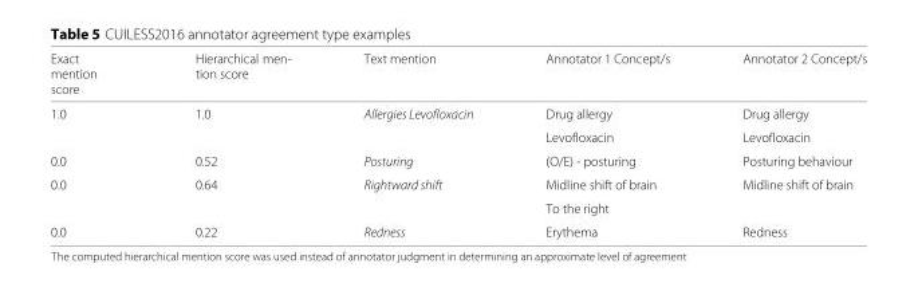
<table><thead><tr><td>Exact mention score</td><td>Hierarchical men- tion score</td><td>Text mention</td><td>Annotator 1 Concept/s</td><td>Annotator 2 Concept/s</td></tr></thead><tbody><tr><td rowspan="2">1.0</td><td>1.0</td><td>Allergies Levofloxacin</td><td>Drug allergy</td><td>Drug allergy</td></tr><tr><td></td><td></td><td>Levofloxacin</td><td>Levofloxacin</td></tr><tr><td>0.0</td><td>0.52</td><td>Posturing</td><td>(O/E) - posturing</td><td>Posturing behaviour</td></tr><tr><td rowspan="2">0.0</td><td>0.64</td><td>Rightward shift</td><td>Midline shift of brain</td><td>Midline shift of brain</td></tr><tr><td></td><td></td><td>To the right</td><td></td></tr><tr><td>0.0</td><td>0.22</td><td>Redness</td><td>Erythema</td><td>Redness</td></tr></tbody></table>